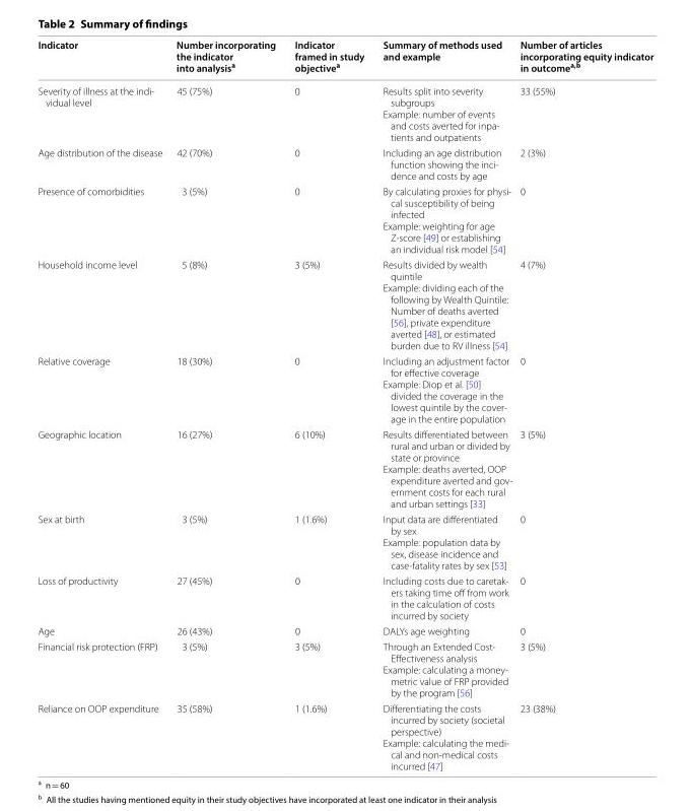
<table><thead><tr><td>Indicator</td><td>Number incorporating the indicator into analysis<sup>a</sup></td><td>Indicator framed in study objective<sup>a</sup></td><td>Summary of methods used and example</td><td>Number of articles incorporating equity indicator in outcome<sup>a,b</sup></td></tr></thead><tbody><tr><td>Severity of illness at the indi‑ vidual level</td><td>45 (75%)</td><td>0</td><td>Results split into severity subgroups Example: number of events and costs averted for inpa‑ tients and outpatients</td><td>33 (55%)</td></tr><tr><td>Age distribution of the disease</td><td>42 (70%)</td><td>0</td><td>Including an age distribution function showing the inci‑ dence and costs by age</td><td>2 (3%)</td></tr><tr><td>Presence of comorbidities</td><td>3 (5%)</td><td>0</td><td>By calculating proxies for physi‑ cal susceptibility of being infected Example: weighting for age Z‑score [49] or establishing an individual risk model [54]</td><td>0</td></tr><tr><td>Household income level</td><td>5 (8%)</td><td>3 (5%)</td><td>Results divided by wealth quintile Example: dividing each of the following by Wealth Quintile: Number of deaths averted [56], private expenditure averted [48], or estimated burden due to RV illness [54]</td><td>4 (7%)</td></tr><tr><td>Relative coverage</td><td>18 (30%)</td><td>0</td><td>Including an adjustment factor for effective coverage Example: Diop et al. [50] divided the coverage in the lowest quintile by the cover‑ age in the entire population</td><td>0</td></tr><tr><td>Geographic location</td><td>16 (27%)</td><td>6 (10%)</td><td>Results differentiated between rural and urban or divided by state or province Example: deaths averted, OOP expenditure averted and gov‑ ernment costs for each rural and urban settings [33]</td><td>3 (5%)</td></tr><tr><td>Sex at birth</td><td>3 (5%)</td><td>1 (1.6%)</td><td>Input data are differentiated by sex Example: population data by sex, disease incidence and case‑fatality rates by sex [53]</td><td>0</td></tr><tr><td>Loss of productivity</td><td>27 (45%)</td><td>0</td><td>Including costs due to caretak‑ ers taking time off from work in the calculation of costs incurred by society</td><td>0</td></tr><tr><td>Age</td><td>26 (43%)</td><td>0</td><td>DALYs age weighting</td><td>0</td></tr><tr><td>Financial risk protection (FRP)</td><td>3 (5%)</td><td>3 (5%)</td><td>Through an Extended Cost‑ Effectiveness analysis Example: calculating a money‑ metric value of FRP provided by the program [56]</td><td>3 (5%)</td></tr><tr><td>Reliance on OOP expenditure</td><td>35 (58%)</td><td>1 (1.6%)</td><td>Differentiating the costs incurred by society (societal perspective) Example: calculating the medi‑ cal and non‑medical costs incurred [47]</td><td>23 (38%)</td></tr></tbody></table>